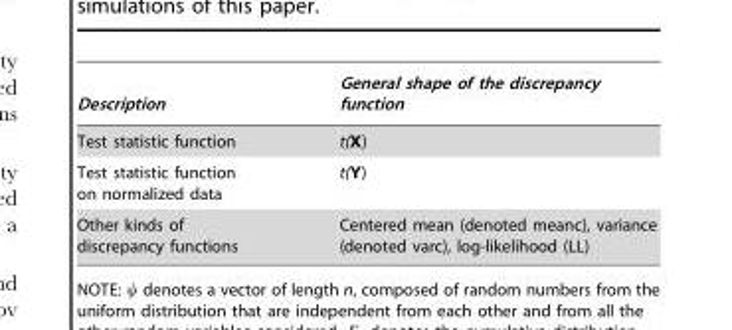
<table><thead><tr><td>Description</td><td>General shape of the discrepancy function</td></tr></thead><tbody><tr><td>Test statistic function</td><td>t(X)</td></tr><tr><td>Test statistic function on normalized data</td><td>t(Y)</td></tr><tr><td>Other kinds of discrepancy functions</td><td>Centered mean (denoted meanc), variance (denoted varc), log-likelihood (LL)</td></tr></tbody></table>